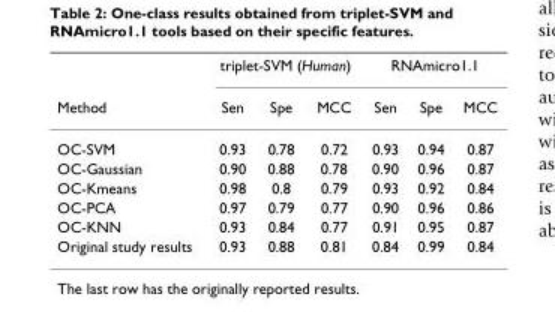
<table><thead><tr><td rowspan="2">Method</td><td colspan="3">triplet-SVM (Human)</td><td colspan="3">RNAmicro1.1</td></tr><tr><td>Sen</td><td>Spe</td><td>MCC</td><td>Sen</td><td>Spe</td><td>MCC</td></tr></thead><tbody><tr><td>OC-SVM</td><td>0.93</td><td>0.78</td><td>0.72</td><td>0.93</td><td>0.94</td><td>0.87</td></tr><tr><td>OC-Gaussian</td><td>0.90</td><td>0.88</td><td>0.78</td><td>0.90</td><td>0.96</td><td>0.87</td></tr><tr><td>OC-Kmeans</td><td>0.98</td><td>0.8</td><td>0.79</td><td>0.93</td><td>0.92</td><td>0.84</td></tr><tr><td>OC-PCA</td><td>0.97</td><td>0.79</td><td>0.77</td><td>0.90</td><td>0.96</td><td>0.86</td></tr><tr><td>OC-KNN</td><td>0.93</td><td>0.84</td><td>0.77</td><td>0.91</td><td>0.95</td><td>0.87</td></tr><tr><td>Original study results</td><td>0.93</td><td>0.88</td><td>0.81</td><td>0.84</td><td>0.99</td><td>0.84</td></tr></tbody></table>